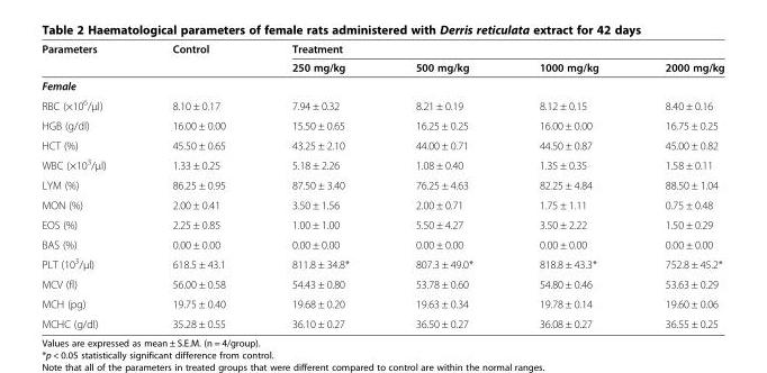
<table><thead><tr><td rowspan="2">Parameters</td><td rowspan="2">Control</td><td colspan="4">Treatment</td></tr><tr><td>250 mg/kg</td><td>500 mg/kg</td><td>1000 mg/kg</td><td>2000 mg/kg</td></tr></thead><tbody><tr><td colspan="6">Female</td></tr><tr><td>RBC (×10<sup>6</sup>/μl)</td><td>8.10 ± 0.17</td><td>7.94 ± 0.32</td><td>8.21 ± 0.19</td><td>8.12 ± 0.15</td><td>8.40 ± 0.16</td></tr><tr><td>HGB (g/dl)</td><td>16.00 ± 0.00</td><td>15.50 ± 0.65</td><td>16.25 ± 0.25</td><td>16.00 ± 0.00</td><td>16.75 ± 0.25</td></tr><tr><td>HCT (%)</td><td>45.50 ± 0.65</td><td>43.25 ± 2.10</td><td>44.00 ± 0.71</td><td>44.50 ± 0.87</td><td>45.00 ± 0.82</td></tr><tr><td>WBC (×10<sup>3</sup>/μl)</td><td>1.33 ± 0.25</td><td>5.18 ± 2.26</td><td>1.08 ± 0.40</td><td>1.35 ± 0.35</td><td>1.58 ± 0.11</td></tr><tr><td>LYM (%)</td><td>86.25 ± 0.95</td><td>87.50 ± 3.40</td><td>76.25 ± 4.63</td><td>82.25 ± 4.84</td><td>88.50 ± 1.04</td></tr><tr><td>MON (%)</td><td>2.00 ± 0.41</td><td>3.50 ± 1.56</td><td>2.00 ± 0.71</td><td>1.75 ± 1.11</td><td>0.75 ± 0.48</td></tr><tr><td>EOS (%)</td><td>2.25 ± 0.85</td><td>1.00 ± 1.00</td><td>5.50 ± 4.27</td><td>3.50 ± 2.22</td><td>1.50 ± 0.29</td></tr><tr><td>BAS (%)</td><td>0.00 ± 0.00</td><td>0.00 ± 0.00</td><td>0.00 ± 0.00</td><td>0.00 ± 0.00</td><td>0.00 ± 0.00</td></tr><tr><td>PLT (10<sup>3</sup>/μl)</td><td>618.5 ± 43.1</td><td>811.8 ± 34.8*</td><td>807.3 ± 49.0*</td><td>818.8 ± 43.3*</td><td>752.8 ± 45.2*</td></tr><tr><td>MCV (fl)</td><td>56.00 ± 0.58</td><td>54.43 ± 0.80</td><td>53.78 ± 0.60</td><td>54.80 ± 0.46</td><td>53.63 ± 0.29</td></tr><tr><td>MCH (pg)</td><td>19.75 ± 0.40</td><td>19.68 ± 0.20</td><td>19.63 ± 0.34</td><td>19.78 ± 0.14</td><td>19.60 ± 0.06</td></tr><tr><td>MCHC (g/dl)</td><td>35.28 ± 0.55</td><td>36.10 ± 0.27</td><td>36.50 ± 0.27</td><td>36.08 ± 0.27</td><td>36.55 ± 0.25</td></tr></tbody></table>